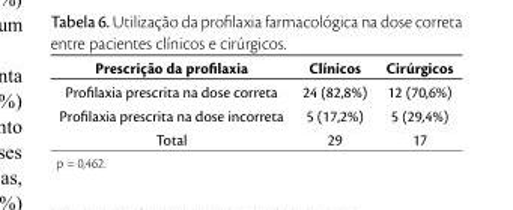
<table><thead><tr><td>Prescrição da profilaxia</td><td>Clínicos</td><td>Cirúrgicos</td></tr></thead><tbody><tr><td>Profilaxia prescrita na dose correta</td><td>24 (82,8%)</td><td>12 (70,6%)</td></tr><tr><td>Profilaxia prescrita na dose incorreta</td><td>5 (17,2%)</td><td>5 (29,4%)</td></tr><tr><td>Total</td><td>29</td><td>17</td></tr></tbody></table>